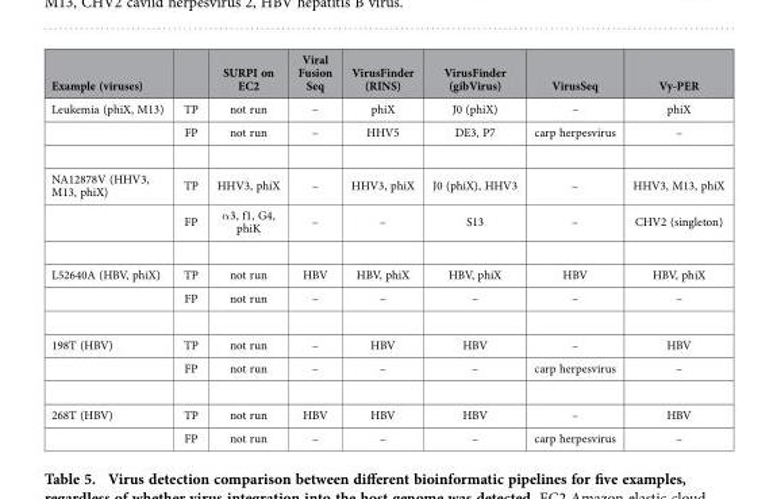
<table><thead><tr><td>Example (viruses)</td><td></td><td>SURPI on EC2</td><td>Viral Fusion Seq</td><td>VirusFinder (RINS)</td><td>VirusFinder (gibVirus)</td><td>VirusSeq</td><td>Vy-PER</td></tr></thead><tbody><tr><td rowspan="2">Leukemia (phiX, M13)</td><td>TP</td><td>not run</td><td>–</td><td>phiX</td><td>J0 (phiX)</td><td>–</td><td>phiX</td></tr><tr><td>FP</td><td>not run</td><td>–</td><td>HHV5</td><td>DE3, P7</td><td>carp herpesvirus</td><td>–</td></tr><tr><td rowspan="2">NA12878V (HHV3, M13, phiX)</td><td>TP</td><td>HHV3, phiX</td><td>–</td><td>HHV3, phiX</td><td>J0 (phiX), HHV3</td><td>–</td><td>HHV3, M13, phiX</td></tr><tr><td>FP</td><td>α 3, f1, G4, phiK</td><td>–</td><td>–</td><td>S13</td><td>–</td><td>CHV2 (singleton)</td></tr><tr><td rowspan="2">L52640A (HBV, phiX)</td><td>TP</td><td>not run</td><td>HBV</td><td>HBV, phiX</td><td>HBV, phiX</td><td>HBV</td><td>HBV, phiX</td></tr><tr><td>FP</td><td>not run</td><td>–</td><td>–</td><td>–</td><td>–</td><td>–</td></tr><tr><td rowspan="2">198T (HBV)</td><td>TP</td><td>not run</td><td>–</td><td>HBV</td><td>HBV</td><td>–</td><td>HBV</td></tr><tr><td>FP</td><td>not run</td><td>–</td><td>–</td><td>–</td><td>carp herpesvirus</td><td>–</td></tr><tr><td rowspan="2">268T (HBV)</td><td>TP</td><td>not run</td><td>HBV</td><td>HBV</td><td>HBV</td><td>–</td><td>HBV</td></tr><tr><td>FP</td><td>not run</td><td>–</td><td>–</td><td>–</td><td>carp herpesvirus</td><td>–</td></tr></tbody></table>